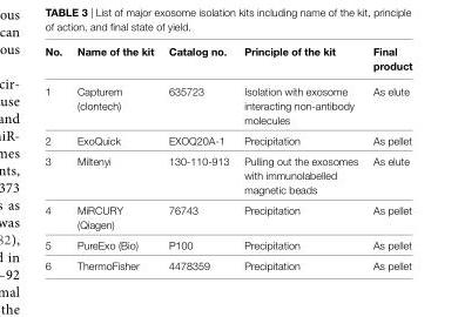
<table><thead><tr><td>No.</td><td>Name of the kit</td><td>Catalog no.</td><td>Principle of the kit</td><td>Final product</td></tr></thead><tbody><tr><td>1</td><td>Capturem (clontech)</td><td>635723</td><td>Isolation with exosome interacting non-antibody molecules</td><td>As elute</td></tr><tr><td>2</td><td>ExoQuick</td><td>EXOQ20A-1</td><td>Precipitation</td><td>As pellet</td></tr><tr><td>3</td><td>Miltenyi</td><td>130-110-913</td><td>Pulling out the exosomes with immunolabelled magnetic beads</td><td>As elute</td></tr><tr><td>4</td><td>MiRCURY (Qiagen)</td><td>76743</td><td>Precipitation</td><td>As pellet</td></tr><tr><td>5</td><td>PureExo (Bio)</td><td>P100</td><td>Precipitation</td><td>As pellet</td></tr><tr><td>6</td><td>ThermoFisher</td><td>4478359</td><td>Precipitation</td><td>As pellet</td></tr></tbody></table>